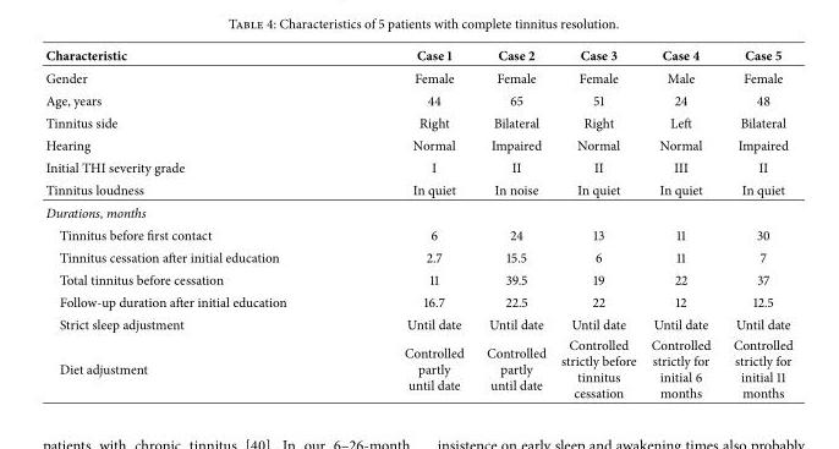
<table><thead><tr><td>Characteristic</td><td>Case 1</td><td>Case 2</td><td>Case 3</td><td>Case 4</td><td>Case 5</td></tr></thead><tbody><tr><td>Gender</td><td>Female</td><td>Female</td><td>Female</td><td>Male</td><td>Female</td></tr><tr><td>Age, years</td><td>44</td><td>65</td><td>51</td><td>24</td><td>48</td></tr><tr><td>Tinnitus side</td><td>Right</td><td>Bilateral</td><td>Right</td><td>Left</td><td>Bilateral</td></tr><tr><td>Hearing</td><td>Normal</td><td>Impaired</td><td>Normal</td><td>Normal</td><td>Impaired</td></tr><tr><td>Initial THI severity grade</td><td>I</td><td>II</td><td>II</td><td>III</td><td>II</td></tr><tr><td>Tinnitus loudness</td><td>In quiet</td><td>In noise</td><td>In quiet</td><td>In quiet</td><td>In quiet</td></tr><tr><td colspan="6">Durations, months</td></tr><tr><td>Tinnitus before first contact</td><td>6</td><td>24</td><td>13</td><td>11</td><td>30</td></tr><tr><td>Tinnitus cessation after initial education</td><td>2.7</td><td>15.5</td><td>6</td><td>11</td><td>7</td></tr><tr><td>Total tinnitus before cessation</td><td>11</td><td>39.5</td><td>19</td><td>22</td><td>37</td></tr><tr><td>Follow-up duration after initial education</td><td>16.7</td><td>22.5</td><td>22</td><td>12</td><td>12.5</td></tr><tr><td>Strict sleep adjustment</td><td>Until date</td><td>Until date</td><td>Until date</td><td>Until date</td><td>Until date</td></tr><tr><td>Diet adjustment</td><td>Controlled partly until date</td><td>Controlled partly until date</td><td>Controlled strictly before tinnitus cessation</td><td>Controlled strictly for initial 6 months</td><td>Controlled strictly for initial 11 months</td></tr></tbody></table>